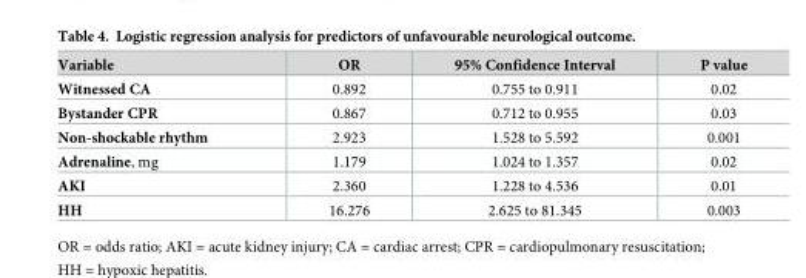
<table><thead><tr><td>Variable</td><td>OR</td><td>95% Confidence Interval</td><td>P value</td></tr></thead><tbody><tr><td>Witnessed CA</td><td>0.892</td><td>0.755 to 0.911</td><td>0.02</td></tr><tr><td>Bystander CPR</td><td>0.867</td><td>0.712 to 0.955</td><td>0.03</td></tr><tr><td>Non-shockable rhythm</td><td>2.923</td><td>1.528 to 5.592</td><td>0.001</td></tr><tr><td>Adrenaline, mg</td><td>1.179</td><td>1.024 to 1.357</td><td>0.02</td></tr><tr><td>AKI</td><td>2.360</td><td>1.228 to 4.536</td><td>0.01</td></tr><tr><td>HH</td><td>16.276</td><td>2.625 to 81.345</td><td>0.003</td></tr></tbody></table>